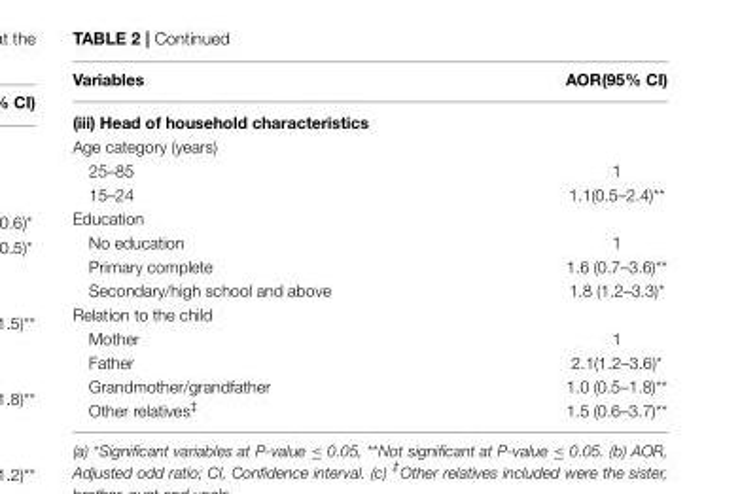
<table><thead><tr><td>Variables</td><td>AOR(95% CI)</td></tr></thead><tbody><tr><td colspan="2">(iii) Head of household characteristics</td></tr><tr><td colspan="2">Age category (years)</td></tr><tr><td>25–85</td><td>1</td></tr><tr><td>15–24</td><td>1.1(0.5–2.4)**</td></tr><tr><td colspan="2">Education</td></tr><tr><td>No education</td><td>1</td></tr><tr><td>Primary complete</td><td>1.6 (0.7–3.6)**</td></tr><tr><td>Secondary/high school and above</td><td>1.8 (1.2–3.3)*</td></tr><tr><td colspan="2">Relation to the child</td></tr><tr><td>Mother</td><td>1</td></tr><tr><td>Father</td><td>2.1(1.2–3.6)*</td></tr><tr><td>Grandmother/grandfather</td><td>1.0 (0.5–1.8)**</td></tr><tr><td>Other relatives<sup>‡</sup></td><td>1.5 (0.6–3.7)**</td></tr></tbody></table>